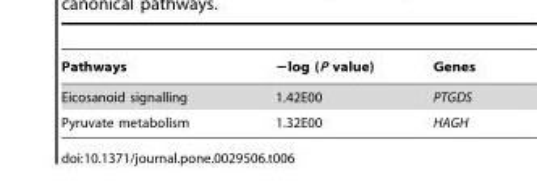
<table><thead><tr><td>Pathways</td><td>−log (P value)</td><td>Genes</td></tr></thead><tbody><tr><td>Eicosanoid signalling</td><td>1.42E00</td><td>PTGDS</td></tr><tr><td>Pyruvate metabolism</td><td>1.32E00</td><td>HAGH</td></tr></tbody></table>